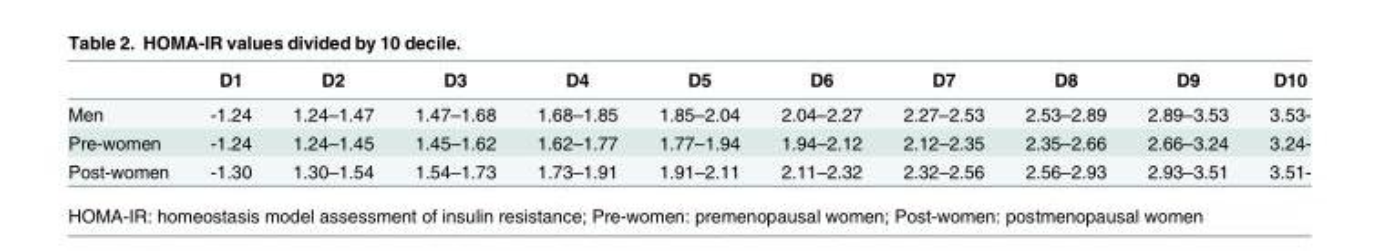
<table><thead><tr><td></td><td>D1</td><td>D2</td><td>D3</td><td>D4</td><td>D5</td><td>D6</td><td>D7</td><td>D8</td><td>D9</td><td>D10</td></tr></thead><tbody><tr><td>Men</td><td>-1.24</td><td>1.24–1.47</td><td>1.47–1.68</td><td>1.68–1.85</td><td>1.85–2.04</td><td>2.04–2.27</td><td>2.27–2.53</td><td>2.53–2.89</td><td>2.89–3.53</td><td>3.53-</td></tr><tr><td>Pre-women</td><td>-1.24</td><td>1.24–1.45</td><td>1.45–1.62</td><td>1.62–1.77</td><td>1.77–1.94</td><td>1.94–2.12</td><td>2.12–2.35</td><td>2.35–2.66</td><td>2.66–3.24</td><td>3.24-</td></tr><tr><td>Post-women</td><td>-1.30</td><td>1.30–1.54</td><td>1.54–1.73</td><td>1.73–1.91</td><td>1.91–2.11</td><td>2.11–2.32</td><td>2.32–2.56</td><td>2.56–2.93</td><td>2.93–3.51</td><td>3.51-</td></tr></tbody></table>